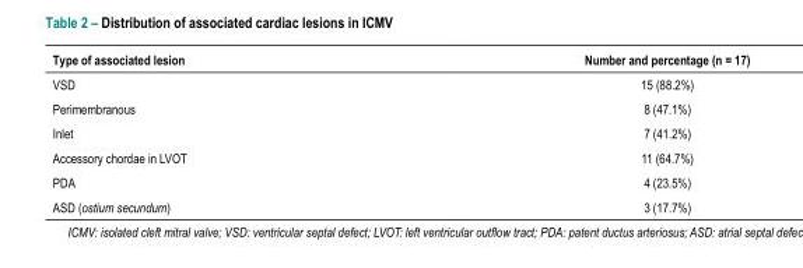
<table><thead><tr><td>Type of associated lesion</td><td>Number and percentage (n = 17)</td></tr></thead><tbody><tr><td>VSD</td><td>15 (88.2%)</td></tr><tr><td>Perimembranous</td><td>8 (47.1%)</td></tr><tr><td>Inlet</td><td>7 (41.2%)</td></tr><tr><td>Accessory chordae in LVOT</td><td>11 (64.7%)</td></tr><tr><td>PDA</td><td>4 (23.5%)</td></tr><tr><td>ASD (ostium secundum)</td><td>3 (17.7%)</td></tr></tbody></table>